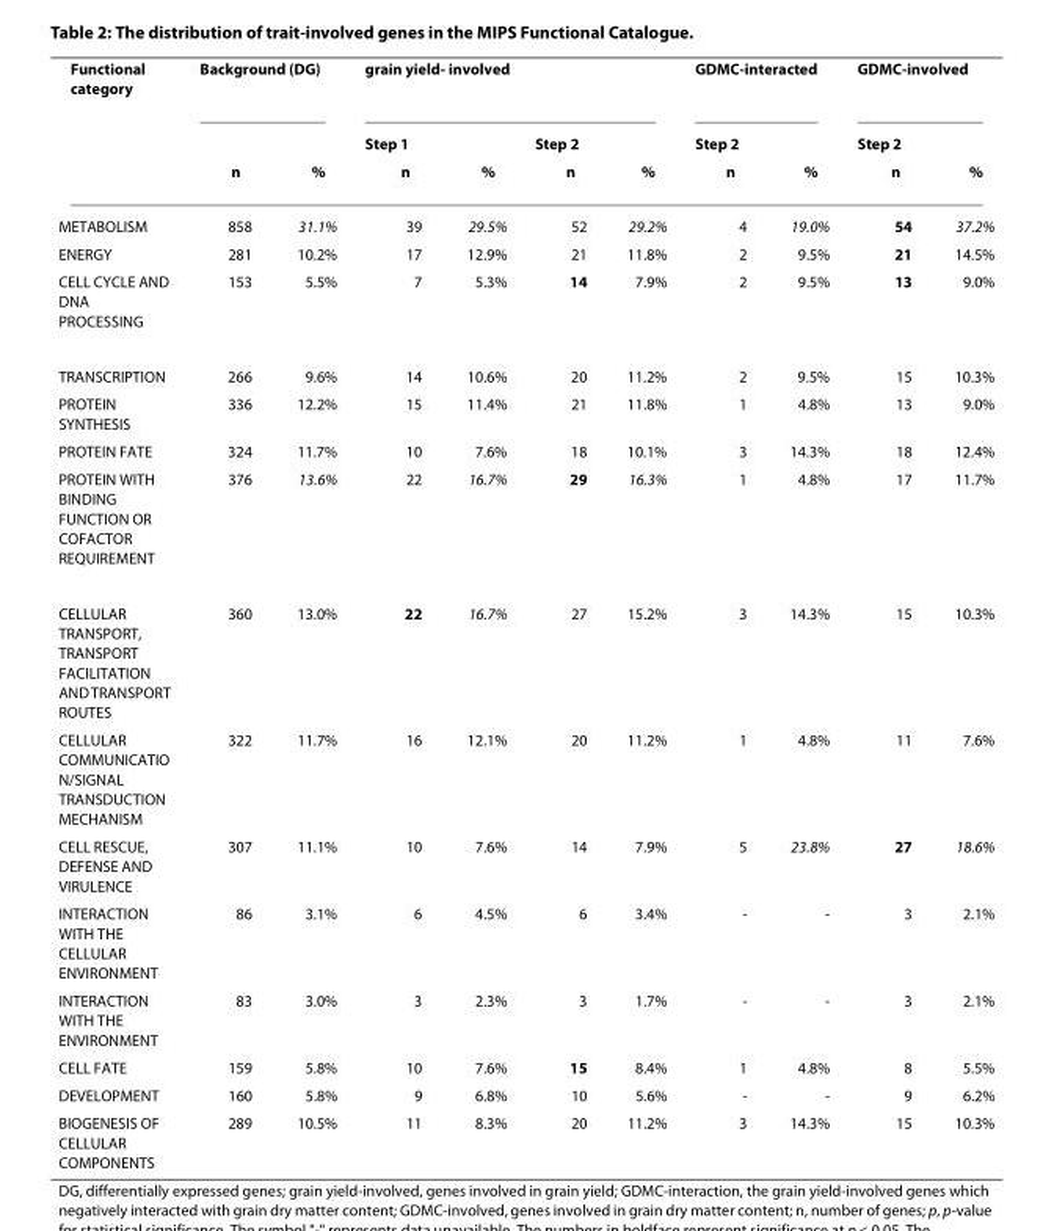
<table><thead><tr><td rowspan="3">Functional category</td><td colspan="2">Background (DG)</td><td colspan="4">grain yield- involved</td><td rowspan="2" colspan="2">GDMC-interacted Step 2</td><td rowspan="2" colspan="2">GDMC-involved Step 2</td></tr><tr><td rowspan="2">n</td><td rowspan="2">%</td><td colspan="2">Step 1</td><td colspan="2">Step 2</td></tr><tr><td>n</td><td>%</td><td>n</td><td>%</td><td>n</td><td>%</td><td>n</td><td>%</td></tr></thead><tbody><tr><td>METABOLISM</td><td>858</td><td>31.1%</td><td>39</td><td>29.5%</td><td>52</td><td>29.2%</td><td>4</td><td>19.0%</td><td>54</td><td>37.2%</td></tr><tr><td>ENERGY</td><td>281</td><td>10.2%</td><td>17</td><td>12.9%</td><td>21</td><td>11.8%</td><td>2</td><td>9.5%</td><td>21</td><td>14.5%</td></tr><tr><td>CELL CYCLE AND DNA PROCESSING</td><td>153</td><td>5.5%</td><td>7</td><td>5.3%</td><td>14</td><td>7.9%</td><td>2</td><td>9.5%</td><td>13</td><td>9.0%</td></tr><tr><td>TRANSCRIPTION</td><td>266</td><td>9.6%</td><td>14</td><td>10.6%</td><td>20</td><td>11.2%</td><td>2</td><td>9.5%</td><td>15</td><td>10.3%</td></tr><tr><td>PROTEIN SYNTHESIS</td><td>336</td><td>12.2%</td><td>15</td><td>11.4%</td><td>21</td><td>11.8%</td><td>1</td><td>4.8%</td><td>13</td><td>9.0%</td></tr><tr><td>PROTEIN FATE</td><td>324</td><td>11.7%</td><td>10</td><td>7.6%</td><td>18</td><td>10.1%</td><td>3</td><td>14.3%</td><td>18</td><td>12.4%</td></tr><tr><td>PROTEIN WITH BINDING FUNCTION OR COFACTOR REQUIREMENT</td><td>376</td><td>13.6%</td><td>22</td><td>16.7%</td><td>29</td><td>16.3%</td><td>1</td><td>4.8%</td><td>17</td><td>11.7%</td></tr><tr><td>CELLULAR TRANSPORT, TRANSPORT FACILITATION AND TRANSPORT ROUTES</td><td>360</td><td>13.0%</td><td>22</td><td>16.7%</td><td>27</td><td>15.2%</td><td>3</td><td>14.3%</td><td>15</td><td>10.3%</td></tr><tr><td>CELLULAR COMMUNICATIO N/SIGNAL TRANSDUCTION MECHANISM</td><td>322</td><td>11.7%</td><td>16</td><td>12.1%</td><td>20</td><td>11.2%</td><td>1</td><td>4.8%</td><td>11</td><td>7.6%</td></tr><tr><td>CELL RESCUE, DEFENSE AND VIRULENCE</td><td>307</td><td>11.1%</td><td>10</td><td>7.6%</td><td>14</td><td>7.9%</td><td>5</td><td>23.8%</td><td>27</td><td>18.6%</td></tr><tr><td>INTERACTION WITH THE CELLULAR ENVIRONMENT</td><td>86</td><td>3.1%</td><td>6</td><td>4.5%</td><td>6</td><td>3.4%</td><td>-</td><td>-</td><td>3</td><td>2.1%</td></tr><tr><td>INTERACTION WITH THE ENVIRONMENT</td><td>83</td><td>3.0%</td><td>3</td><td>2.3%</td><td>3</td><td>1.7%</td><td>-</td><td>-</td><td>3</td><td>2.1%</td></tr><tr><td>CELL FATE</td><td>159</td><td>5.8%</td><td>10</td><td>7.6%</td><td>15</td><td>8.4%</td><td>1</td><td>4.8%</td><td>8</td><td>5.5%</td></tr><tr><td>DEVELOPMENT</td><td>160</td><td>5.8%</td><td>9</td><td>6.8%</td><td>10</td><td>5.6%</td><td>-</td><td>-</td><td>9</td><td>6.2%</td></tr><tr><td>BIOGENESIS OF CELLULAR COMPONENTS</td><td>289</td><td>10.5%</td><td>11</td><td>8.3%</td><td>20</td><td>11.2%</td><td>3</td><td>14.3%</td><td>15</td><td>10.3%</td></tr></tbody></table>